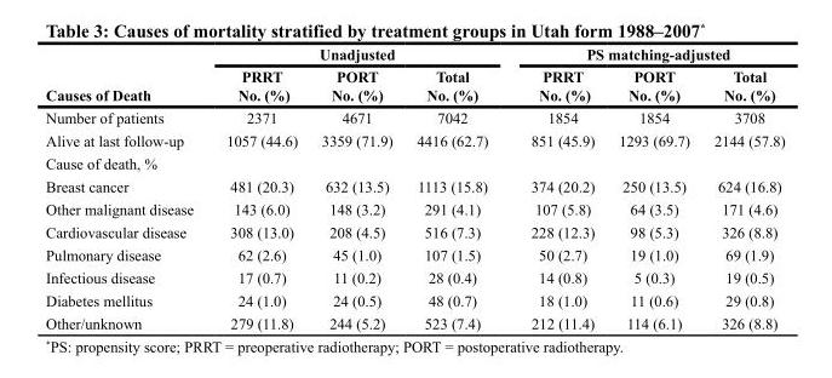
<table><thead><tr><td rowspan="2">Causes of Death</td><td colspan="3">Unadjusted</td><td colspan="3">PS matching-adjusted</td></tr><tr><td>PRRT No. (%)</td><td>PORT No. (%)</td><td>Total No. (%)</td><td>PRRT No. (%)</td><td>PORT No. (%)</td><td>Total No. (%)</td></tr></thead><tbody><tr><td>Number of patients</td><td>2371</td><td>4671</td><td>7042</td><td>1854</td><td>1854</td><td>3708</td></tr><tr><td>Alive at last follow-up</td><td>1057 (44.6)</td><td>3359 (71.9)</td><td>4416 (62.7)</td><td>851 (45.9)</td><td>1293 (69.7)</td><td>2144 (57.8)</td></tr><tr><td colspan="7">Cause of death, %</td></tr><tr><td>Breast cancer</td><td>481 (20.3)</td><td>632 (13.5)</td><td>1113 (15.8)</td><td>374 (20.2)</td><td>250 (13.5)</td><td>624 (16.8)</td></tr><tr><td>Other malignant disease</td><td>143 (6.0)</td><td>148 (3.2)</td><td>291 (4.1)</td><td>107 (5.8)</td><td>64 (3.5)</td><td>171 (4.6)</td></tr><tr><td>Cardiovascular disease</td><td>308 (13.0)</td><td>208 (4.5)</td><td>516 (7.3)</td><td>228 (12.3)</td><td>98 (5.3)</td><td>326 (8.8)</td></tr><tr><td>Pulmonary disease</td><td>62 (2.6)</td><td>45 (1.0)</td><td>107 (1.5)</td><td>50 (2.7)</td><td>19 (1.0)</td><td>69 (1.9)</td></tr><tr><td>Infectious disease</td><td>17 (0.7)</td><td>11 (0.2)</td><td>28 (0.4)</td><td>14 (0.8)</td><td>5 (0.3)</td><td>19 (0.5)</td></tr><tr><td>Diabetes mellitus</td><td>24 (1.0)</td><td>24 (0.5)</td><td>48 (0.7)</td><td>18 (1.0)</td><td>11 (0.6)</td><td>29 (0.8)</td></tr><tr><td>Other/unknown</td><td>279 (11.8)</td><td>244 (5.2)</td><td>523 (7.4)</td><td>212 (11.4)</td><td>114 (6.1)</td><td>326 (8.8)</td></tr></tbody></table>